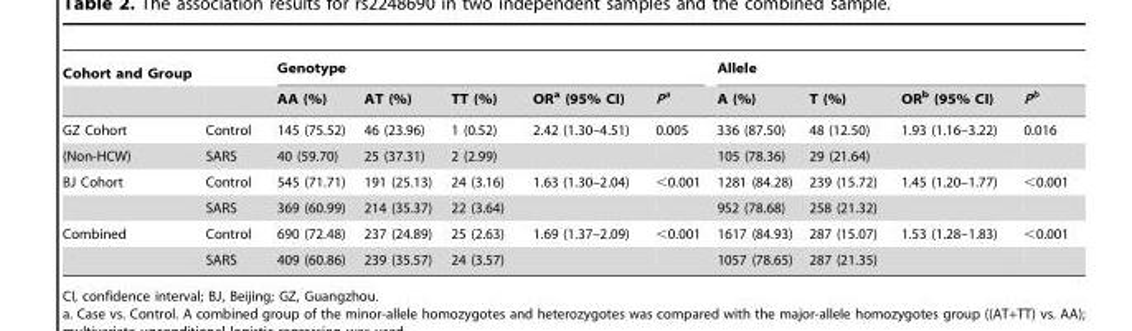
<table><thead><tr><td colspan="2">Cohort and Group</td><td colspan="5">Genotype</td><td colspan="4">Allele</td></tr><tr><td></td><td></td><td>AA (%)</td><td>AT (%)</td><td>TT (%)</td><td>OR<sup>a</sup> (95% CI)</td><td>P<sup>a</sup></td><td>A (%)</td><td>T (%)</td><td>OR<sup>b</sup> (95% CI)</td><td>P<sup>b</sup></td></tr></thead><tbody><tr><td>GZ Cohort</td><td>Control</td><td>145 (75.52)</td><td>46 (23.96)</td><td>1 (0.52)</td><td>2.42 (1.30–4.51)</td><td>0.005</td><td>336 (87.50)</td><td>48 (12.50)</td><td>1.93 (1.16–3.22)</td><td>0.016</td></tr><tr><td>(Non-HCW)</td><td>SARS</td><td>40 (59.70)</td><td>25 (37.31)</td><td>2 (2.99)</td><td></td><td></td><td>105 (78.36)</td><td>29 (21.64)</td><td></td><td></td></tr><tr><td rowspan="2">BJ Cohort</td><td>Control</td><td>545 (71.71)</td><td>191 (25.13)</td><td>24 (3.16)</td><td>1.63 (1.30–2.04)</td><td>&lt;0.001</td><td>1281 (84.28)</td><td>239 (15.72)</td><td>1.45 (1.20–1.77)</td><td>&lt;0.001</td></tr><tr><td>SARS</td><td>369 (60.99)</td><td>214 (35.37)</td><td>22 (3.64)</td><td></td><td></td><td>952 (78.68)</td><td>258 (21.32)</td><td></td><td></td></tr><tr><td rowspan="2">Combined</td><td>Control</td><td>690 (72.48)</td><td>237 (24.89)</td><td>25 (2.63)</td><td>1.69 (1.37–2.09)</td><td>&lt;0.001</td><td>1617 (84.93)</td><td>287 (15.07)</td><td>1.53 (1.28–1.83)</td><td>&lt;0.001</td></tr><tr><td>SARS</td><td>409 (60.86)</td><td>239 (35.57)</td><td>24 (3.57)</td><td></td><td></td><td>1057 (78.65)</td><td>287 (21.35)</td><td></td><td></td></tr></tbody></table>